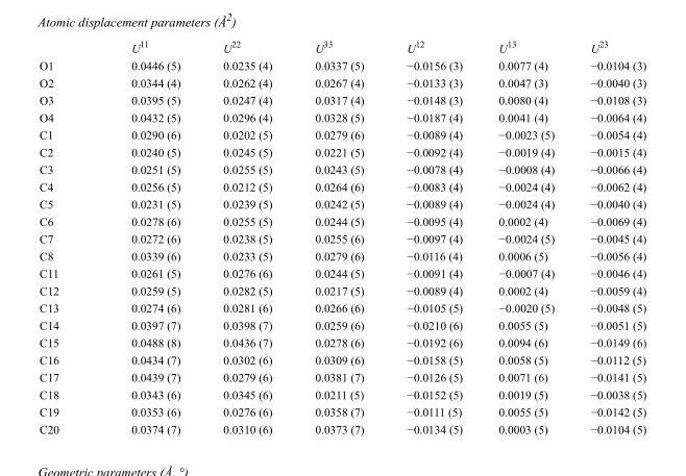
<table><thead><tr><td></td><td>U<sup>11</sup></td><td>U<sup>22</sup></td><td>U<sup>33</sup></td><td>U<sup>12</sup></td><td>U<sup>13</sup></td><td>U<sup>23</sup></td></tr></thead><tbody><tr><td>O1</td><td>0.0446 (5)</td><td>0.0235 (4)</td><td>0.0337 (5)</td><td>−0.0156 (3)</td><td>0.0077 (4)</td><td>−0.0104 (3)</td></tr><tr><td>O2</td><td>0.0344 (4)</td><td>0.0262 (4)</td><td>0.0267 (4)</td><td>−0.0133 (3)</td><td>0.0047 (3)</td><td>−0.0040 (3)</td></tr><tr><td>O3</td><td>0.0395 (5)</td><td>0.0247 (4)</td><td>0.0317 (4)</td><td>−0.0148 (3)</td><td>0.0080 (4)</td><td>−0.0108 (3)</td></tr><tr><td>O4</td><td>0.0432 (5)</td><td>0.0296 (4)</td><td>0.0328 (5)</td><td>−0.0187 (4)</td><td>0.0041 (4)</td><td>−0.0064 (4)</td></tr><tr><td>C1</td><td>0.0290 (6)</td><td>0.0202 (5)</td><td>0.0279 (6)</td><td>−0.0089 (4)</td><td>−0.0023 (5)</td><td>−0.0054 (4)</td></tr><tr><td>C2</td><td>0.0240 (5)</td><td>0.0245 (5)</td><td>0.0221 (5)</td><td>−0.0092 (4)</td><td>−0.0019 (4)</td><td>−0.0015 (4)</td></tr><tr><td>C3</td><td>0.0251 (5)</td><td>0.0255 (5)</td><td>0.0243 (5)</td><td>−0.0078 (4)</td><td>−0.0008 (4)</td><td>−0.0066 (4)</td></tr><tr><td>C4</td><td>0.0256 (5)</td><td>0.0212 (5)</td><td>0.0264 (6)</td><td>−0.0083 (4)</td><td>−0.0024 (4)</td><td>−0.0062 (4)</td></tr><tr><td>C5</td><td>0.0231 (5)</td><td>0.0239 (5)</td><td>0.0242 (5)</td><td>−0.0089 (4)</td><td>−0.0024 (4)</td><td>−0.0040 (4)</td></tr><tr><td>C6</td><td>0.0278 (6)</td><td>0.0255 (5)</td><td>0.0244 (5)</td><td>−0.0095 (4)</td><td>0.0002 (4)</td><td>−0.0069 (4)</td></tr><tr><td>C7</td><td>0.0272 (6)</td><td>0.0238 (5)</td><td>0.0255 (6)</td><td>−0.0097 (4)</td><td>−0.0024 (5)</td><td>−0.0045 (4)</td></tr><tr><td>C8</td><td>0.0339 (6)</td><td>0.0233 (5)</td><td>0.0279 (6)</td><td>−0.0116 (4)</td><td>0.0006 (5)</td><td>−0.0056 (4)</td></tr><tr><td>C11</td><td>0.0261 (5)</td><td>0.0276 (6)</td><td>0.0244 (5)</td><td>−0.0091 (4)</td><td>−0.0007 (4)</td><td>−0.0046 (4)</td></tr><tr><td>C12</td><td>0.0259 (5)</td><td>0.0282 (5)</td><td>0.0217 (5)</td><td>−0.0089 (4)</td><td>0.0002 (4)</td><td>−0.0059 (4)</td></tr><tr><td>C13</td><td>0.0274 (6)</td><td>0.0281 (6)</td><td>0.0266 (6)</td><td>−0.0105 (5)</td><td>−0.0020 (5)</td><td>−0.0048 (5)</td></tr><tr><td>C14</td><td>0.0397 (7)</td><td>0.0398 (7)</td><td>0.0259 (6)</td><td>−0.0210 (6)</td><td>0.0055 (5)</td><td>−0.0051 (5)</td></tr><tr><td>C15</td><td>0.0488 (8)</td><td>0.0436 (7)</td><td>0.0278 (6)</td><td>−0.0192 (6)</td><td>0.0094 (6)</td><td>−0.0149 (6)</td></tr><tr><td>C16</td><td>0.0434 (7)</td><td>0.0302 (6)</td><td>0.0309 (6)</td><td>−0.0158 (5)</td><td>0.0058 (5)</td><td>−0.0112 (5)</td></tr><tr><td>C17</td><td>0.0439 (7)</td><td>0.0279 (6)</td><td>0.0381 (7)</td><td>−0.0126 (5)</td><td>0.0071 (6)</td><td>−0.0141 (5)</td></tr><tr><td>C18</td><td>0.0343 (6)</td><td>0.0345 (6)</td><td>0.0211 (5)</td><td>−0.0152 (5)</td><td>0.0019 (5)</td><td>−0.0038 (5)</td></tr><tr><td>C19</td><td>0.0353 (6)</td><td>0.0276 (6)</td><td>0.0358 (7)</td><td>−0.0111 (5)</td><td>0.0055 (5)</td><td>−0.0142 (5)</td></tr><tr><td>C20</td><td>0.0374 (7)</td><td>0.0310 (6)</td><td>0.0373 (7)</td><td>−0.0134 (5)</td><td>0.0003 (5)</td><td>−0.0104 (5)</td></tr></tbody></table>